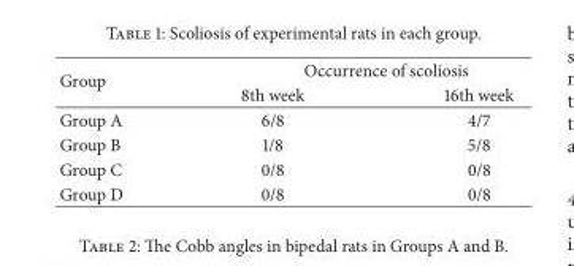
<table><thead><tr><td rowspan="2">Group</td><td colspan="2">Occurrence of scoliosis</td></tr><tr><td>8th week</td><td>16th week</td></tr></thead><tbody><tr><td>Group A</td><td>6/8</td><td>4/7</td></tr><tr><td>Group B</td><td>1/8</td><td>5/8</td></tr><tr><td>Group C</td><td>0/8</td><td>0/8</td></tr><tr><td>Group D</td><td>0/8</td><td>0/8</td></tr></tbody></table>